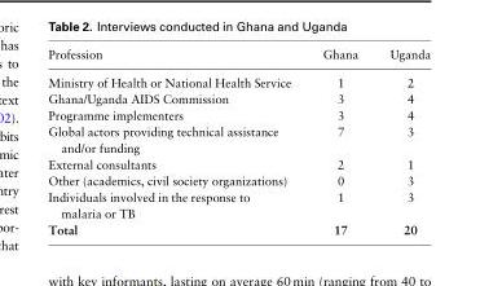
<table><thead><tr><td>Profession</td><td>Ghana</td><td>Uganda</td></tr></thead><tbody><tr><td>Ministry of Health or National Health Service</td><td>1</td><td>2</td></tr><tr><td>Ghana/Uganda AIDS Commission</td><td>3</td><td>4</td></tr><tr><td>Programme implementers</td><td>3</td><td>4</td></tr><tr><td>Global actors providing technical assistance and/or funding</td><td>7</td><td>3</td></tr><tr><td>External consultants</td><td>2</td><td>1</td></tr><tr><td>Other (academics, civil society organizations)</td><td>0</td><td>3</td></tr><tr><td>Individuals involved in the response to malaria or TB</td><td>1</td><td>3</td></tr><tr><td>Total</td><td>17</td><td>20</td></tr></tbody></table>